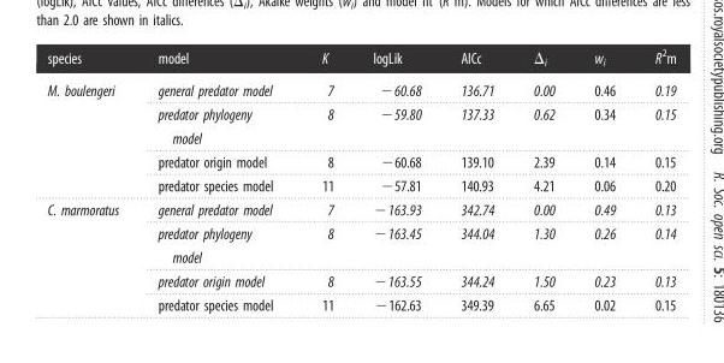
<table><thead><tr><td>species</td><td>model</td><td>K</td><td>logLik</td><td>AICc</td><td>Δ<sub>i</sub></td><td>w<sub>i</sub></td><td>R<sup>2</sup>m</td></tr></thead><tbody><tr><td rowspan="4">M. boulengeri</td><td>general predator model</td><td>7</td><td>−60.68</td><td>136.71</td><td>0.00</td><td>0.46</td><td>0.19</td></tr><tr><td>predator phylogeny model</td><td>8</td><td>−59.80</td><td>137.33</td><td>0.62</td><td>0.34</td><td>0.15</td></tr><tr><td>predator origin model</td><td>8</td><td>−60.68</td><td>139.10</td><td>2.39</td><td>0.14</td><td>0.15</td></tr><tr><td>predator species model</td><td>11</td><td>−57.81</td><td>140.93</td><td>4.21</td><td>0.06</td><td>0.20</td></tr><tr><td rowspan="4">C. marmoratus</td><td>general predator model</td><td>7</td><td>−163.93</td><td>342.74</td><td>0.00</td><td>0.49</td><td>0.13</td></tr><tr><td>predator phylogeny model</td><td>8</td><td>−163.45</td><td>344.04</td><td>1.30</td><td>0.26</td><td>0.14</td></tr><tr><td>predator origin model</td><td>8</td><td>−163.55</td><td>344.24</td><td>1.50</td><td>0.23</td><td>0.13</td></tr><tr><td>predator species model</td><td>11</td><td>−162.63</td><td>349.39</td><td>6.65</td><td>0.02</td><td>0.15</td></tr></tbody></table>